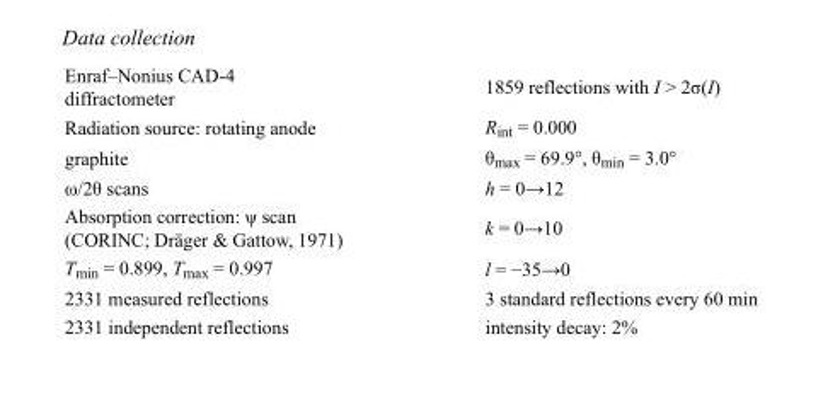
<table><tbody><tr><td>Enraf–Nonius CAD-4 diffractometer</td><td>1859 reflections with I &gt; 2σ(I)</td></tr><tr><td>Radiation source: rotating anode</td><td>Rint = 0.000</td></tr><tr><td>graphite</td><td>θ<sub>max</sub> = 69.9°, θ<sub>min</sub> = 3.0°</td></tr><tr><td>ω/2θ scans</td><td>h = 0→12</td></tr><tr><td>Absorption correction: ψ scan (CORINC; Dräger &amp; Gattow, 1971)</td><td>k = 0→10</td></tr><tr><td>T<sub>min</sub> = 0.899, T<sub>max</sub> = 0.997</td><td>l = −35→0</td></tr><tr><td>2331 measured reflections</td><td>3 standard reflections every 60 min</td></tr><tr><td>2331 independent reflections</td><td>intensity decay: 2%</td></tr></tbody></table>